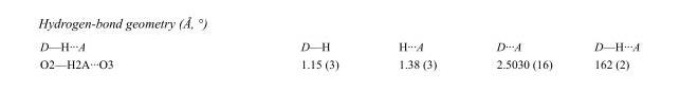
<table><tbody><tr><td>D—H···A</td><td>D—H</td><td>H···A</td><td>D···A</td><td>D—H···A</td></tr><tr><td>O2—H2A···O3</td><td>1.15 (3)</td><td>1.38 (3)</td><td>2.5030 (16)</td><td>162 (2)</td></tr></tbody></table>